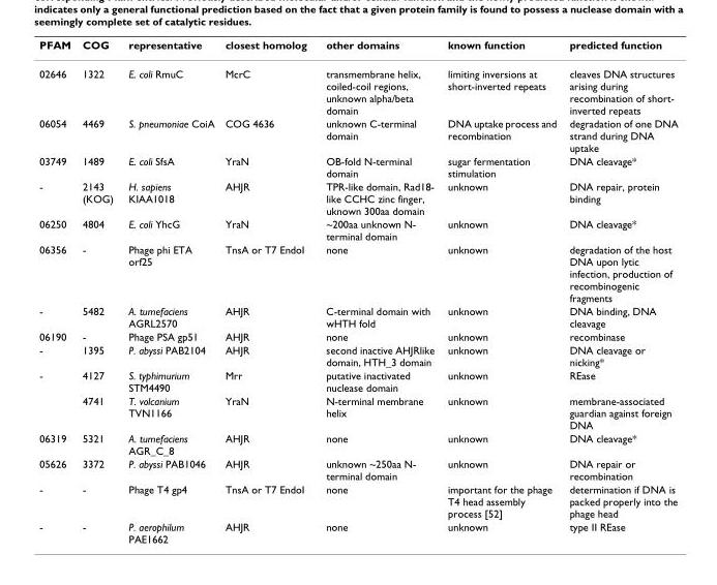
<table><thead><tr><td>PFAM</td><td>COG</td><td>representative</td><td>closest homolog</td><td>other domains</td><td>known function</td><td>predicted function</td></tr></thead><tbody><tr><td>02646</td><td>1322</td><td>E. coli RmuC</td><td>McrC</td><td>transmembrane helix, coiled-coil regions, unknown alpha/beta domain</td><td>limiting inversions at short-inverted repeats</td><td>cleaves DNA structures arising during recombination of short- inverted repeats</td></tr><tr><td>06054</td><td>4469</td><td>S. pneumoniae CoiA</td><td>COG 4636</td><td>unknown C-terminal domain</td><td>DNA uptake process and recombination</td><td>degradation of one DNA strand during DNA uptake</td></tr><tr><td>03749</td><td>1489</td><td>E. coli SfsA</td><td>YraN</td><td>OB-fold N-terminal domain</td><td>sugar fermentation stimulation</td><td>DNA cleavage*</td></tr><tr><td>-</td><td>2143 (KOG)</td><td>H. sapiens KIAA1018</td><td>AHJR</td><td>TPR-like domain, Rad18- like CCHC zinc finger, uknown 300aa domain</td><td>unknown</td><td>DNA repair, protein binding</td></tr><tr><td>06250</td><td>4804</td><td>E. coli YhcG</td><td>YraN</td><td>~200aa unknown N- terminal domain</td><td>unknown</td><td>DNA cleavage*</td></tr><tr><td>06356</td><td>-</td><td>Phage phi ETA orf25</td><td>TnsA or T7 EndoI</td><td>none</td><td>unknown</td><td>degradation of the host DNA upon lytic infection, production of recombinogenic fragments</td></tr><tr><td>-</td><td>5482</td><td>A. tumefaciens AGRL2570</td><td>AHJR</td><td>C-terminal domain with wHTH fold</td><td>unknown</td><td>DNA binding, DNA cleavage</td></tr><tr><td>06190</td><td>-</td><td>Phage PSA gp51</td><td>AHJR</td><td>none</td><td>unknown</td><td>recombinase</td></tr><tr><td>-</td><td>1395</td><td>P. abyssi PAB2104</td><td>AHJR</td><td>second inactive AHJRlike domain, HTH_3 domain</td><td>unknown</td><td>DNA cleavage or nicking*</td></tr><tr><td rowspan="2">-</td><td>4127</td><td>S. typhimurium STM4490</td><td>Mrr</td><td>putative inactivated nuclease domain</td><td>unknown</td><td>REase</td></tr><tr><td>4741</td><td>T. volcanium TVN1166</td><td>YraN</td><td>N-terminal membrane helix</td><td>unknown</td><td>membrane-associated guardian against foreign DNA</td></tr><tr><td>06319</td><td>5321</td><td>A. tumefaciens AGR_C_8</td><td>AHJR</td><td>none</td><td>unknown</td><td>DNA cleavage*</td></tr><tr><td>05626</td><td>3372</td><td>P. abyssi PAB1046</td><td>AHJR</td><td>unknown ~250aa N- terminal domain</td><td>unknown</td><td>DNA repair or recombination</td></tr><tr><td>-</td><td>-</td><td>Phage T4 gp4</td><td>TnsA or T7 EndoI</td><td>none</td><td>important for the phage T4 head assembly process [52]</td><td>determination if DNA is packed properly into the phage head</td></tr><tr><td>-</td><td>-</td><td>P. aerophilum PAE1662</td><td>AHJR</td><td>none</td><td>unknown</td><td>type II REase</td></tr></tbody></table>